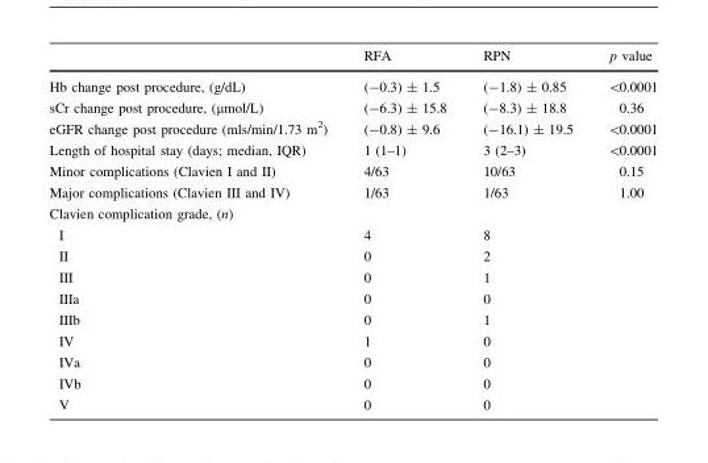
<table><thead><tr><td></td><td>RFA</td><td>RPN</td><td>p value</td></tr></thead><tbody><tr><td>Hb change post procedure, (g/dL)</td><td>(-0.3) ± 1.5</td><td>(-1.8) ± 0.85</td><td>&lt;0.0001</td></tr><tr><td>sCr change post procedure, (µmol/L)</td><td>(-6.3) ± 15.8</td><td>(-8.3) ± 18.8</td><td>0.36</td></tr><tr><td>eGFR change post procedure (mls/min/1.73 m<sup>2</sup>)</td><td>(-0.8) ± 9.6</td><td>(-16.1) ± 19.5</td><td>&lt;0.0001</td></tr><tr><td>Length of hospital stay (days; median, IQR)</td><td>1 (1–1)</td><td>3 (2–3)</td><td>&lt;0.0001</td></tr><tr><td>Minor complications (Clavien I and II)</td><td>4/63</td><td>10/63</td><td>0.15</td></tr><tr><td>Major complications (Clavien III and IV)</td><td>1/63</td><td>1/63</td><td>1.00</td></tr><tr><td colspan="4">Clavien complication grade, (n)</td></tr><tr><td>I</td><td>4</td><td>8</td><td rowspan="9"></td></tr><tr><td>II</td><td>0</td><td>2</td></tr><tr><td>III</td><td>0</td><td>1</td></tr><tr><td>IIIa</td><td>0</td><td>0</td></tr><tr><td>IIIb</td><td>0</td><td>1</td></tr><tr><td>IV</td><td>1</td><td>0</td></tr><tr><td>IVa</td><td>0</td><td>0</td></tr><tr><td>IVb</td><td>0</td><td>0</td></tr><tr><td>V</td><td>0</td><td>0</td></tr></tbody></table>